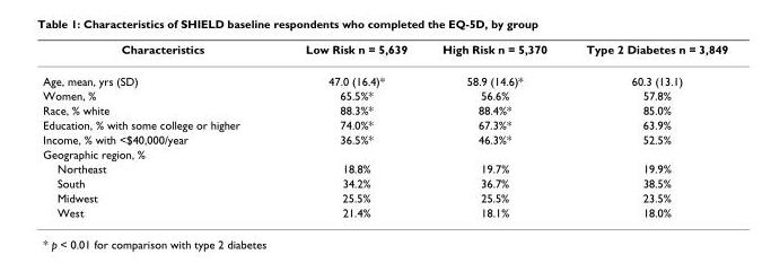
<table><thead><tr><td>Characteristics</td><td>Low Risk n = 5,639</td><td>High Risk n = 5,370</td><td>Type 2 Diabetes n = 3,849</td></tr></thead><tbody><tr><td>Age, mean, yrs (SD)</td><td>47.0 (16.4)*</td><td>58.9 (14.6)*</td><td>60.3 (13.1)</td></tr><tr><td>Women, %</td><td>65.5%*</td><td>56.6%</td><td>57.8%</td></tr><tr><td>Race, % white</td><td>88.3%*</td><td>88.4%*</td><td>85.0%</td></tr><tr><td>Education, % with some college or higher</td><td>74.0%*</td><td>67.3%*</td><td>63.9%</td></tr><tr><td>Income, % with &lt;$40,000/year</td><td>36.5%*</td><td>46.3%*</td><td>52.5%</td></tr><tr><td colspan="4">Geographic region, %</td></tr><tr><td>Northeast</td><td>18.8%</td><td>19.7%</td><td>19.9%</td></tr><tr><td>South</td><td>34.2%</td><td>36.7%</td><td>38.5%</td></tr><tr><td>Midwest</td><td>25.5%</td><td>25.5%</td><td>23.5%</td></tr><tr><td>West</td><td>21.4%</td><td>18.1%</td><td>18.0%</td></tr></tbody></table>